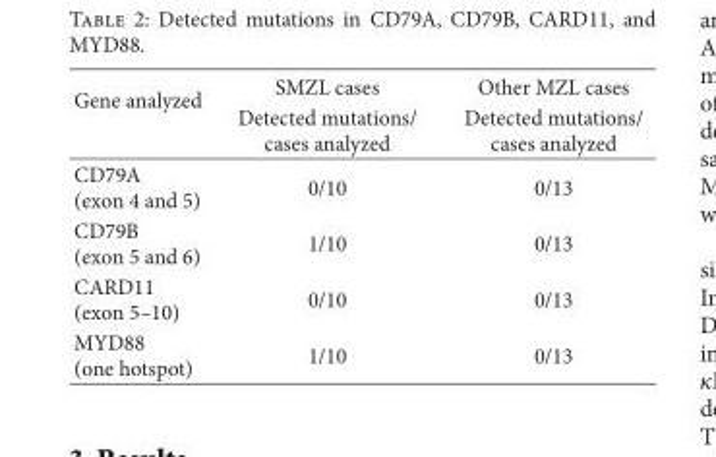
<table><thead><tr><td rowspan="2">Gene analyzed</td><td rowspan="2">SMZL cases Detected mutations/ cases analyzed</td><td rowspan="2">Other MZL cases Detected mutations/ cases analyzed</td></tr><tr></tr></thead><tbody><tr><td>CD79A (exon 4 and 5)</td><td>0/10</td><td>0/13</td></tr><tr><td>CD79B (exon 5 and 6)</td><td>1/10</td><td>0/13</td></tr><tr><td>CARD11 (exon 5–10)</td><td>0/10</td><td>0/13</td></tr><tr><td>MYD88 (one hotspot)</td><td>1/10</td><td>0/13</td></tr></tbody></table>